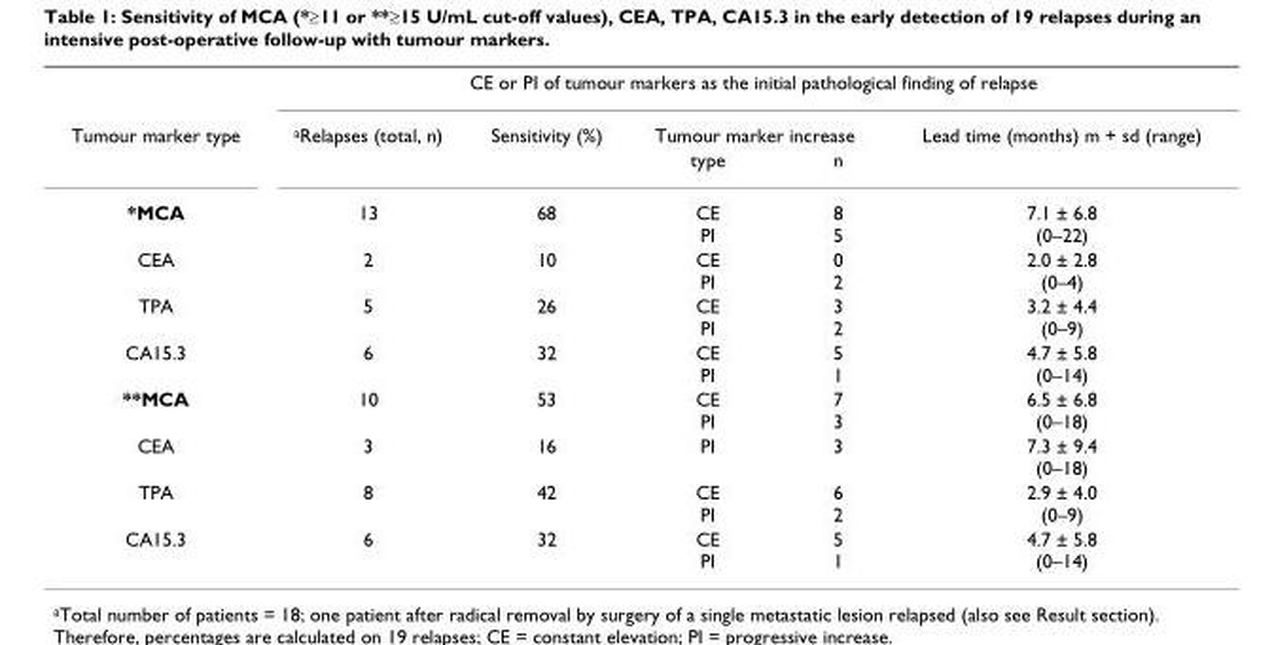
<table><thead><tr><td rowspan="3">Tumour marker type</td><td colspan="5">CE or PI of tumour markers as the initial pathological finding of relapse</td></tr><tr><td rowspan="2">aRelapses (total, n)</td><td rowspan="2">Sensitivity (%)</td><td colspan="2">Tumour marker increase</td><td rowspan="2">Lead time (months) m + sd (range)</td></tr><tr><td>type</td><td>n</td></tr></thead><tbody><tr><td>*MCA</td><td>13</td><td>68</td><td>CE PI</td><td>8 5</td><td>7.1 ± 6.8 (0–22)</td></tr><tr><td>CEA</td><td>2</td><td>10</td><td>CE PI</td><td>0 2</td><td>2.0 ± 2.8 (0–4)</td></tr><tr><td>TPA</td><td>5</td><td>26</td><td>CE PI</td><td>3 2</td><td>3.2 ± 4.4 (0–9)</td></tr><tr><td>CA15.3</td><td>6</td><td>32</td><td>CE PI</td><td>5 1</td><td>4.7 ± 5.8 (0–14)</td></tr><tr><td>**MCA</td><td>10</td><td>53</td><td>CE PI</td><td>7 3</td><td>6.5 ± 6.8 (0–18)</td></tr><tr><td>CEA</td><td>3</td><td>16</td><td>PI</td><td>3</td><td>7.3 ± 9.4 (0–18)</td></tr><tr><td>TPA</td><td>8</td><td>42</td><td>CE PI</td><td>6 2</td><td>2.9 ± 4.0 (0–9)</td></tr><tr><td>CA15.3</td><td>6</td><td>32</td><td>CE PI</td><td>5 1</td><td>4.7 ± 5.8 (0–14)</td></tr></tbody></table>